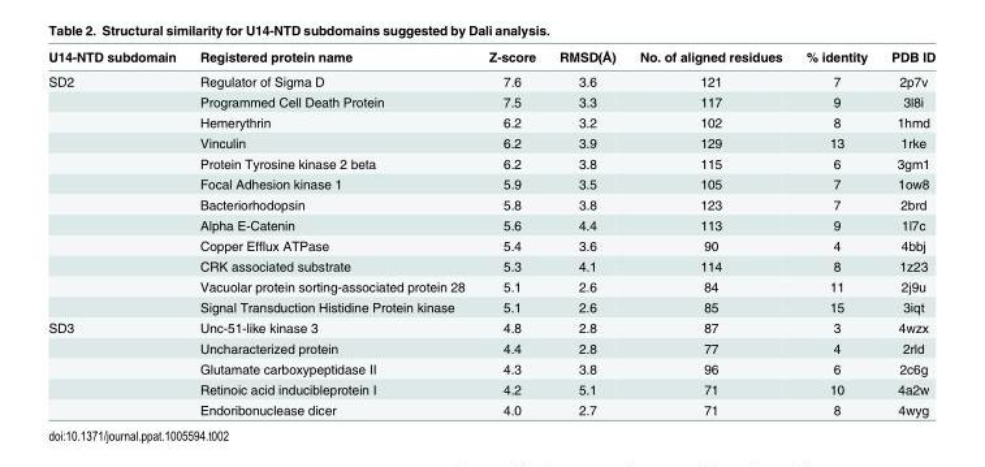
<table><thead><tr><td>U14-NTD subdomain</td><td>Registered protein name</td><td>Z-score</td><td>RMSD(Å)</td><td>No. of aligned residues</td><td>% identity</td><td>PDB ID</td></tr></thead><tbody><tr><td rowspan="12">SD2</td><td>Regulator of Sigma D</td><td>7.6</td><td>3.6</td><td>121</td><td>7</td><td>2p7v</td></tr><tr><td>Programmed Cell Death Protein</td><td>7.5</td><td>3.3</td><td>117</td><td>9</td><td>3l8i</td></tr><tr><td>Hemerythrin</td><td>6.2</td><td>3.2</td><td>102</td><td>8</td><td>1hmd</td></tr><tr><td>Vinculin</td><td>6.2</td><td>3.9</td><td>129</td><td>13</td><td>1rke</td></tr><tr><td>Protein Tyrosine kinase 2 beta</td><td>6.2</td><td>3.8</td><td>115</td><td>6</td><td>3gm1</td></tr><tr><td>Focal Adhesion kinase 1</td><td>5.9</td><td>3.5</td><td>105</td><td>7</td><td>1ow8</td></tr><tr><td>Bacteriorhodopsin</td><td>5.8</td><td>3.8</td><td>123</td><td>7</td><td>2brd</td></tr><tr><td>Alpha E-Catenin</td><td>5.6</td><td>4.4</td><td>113</td><td>9</td><td>1l7c</td></tr><tr><td>Copper Efflux ATPase</td><td>5.4</td><td>3.6</td><td>90</td><td>4</td><td>4bbj</td></tr><tr><td>CRK associated substrate</td><td>5.3</td><td>4.1</td><td>114</td><td>8</td><td>1z23</td></tr><tr><td>Vacuolar protein sorting-associated protein 28</td><td>5.1</td><td>2.6</td><td>84</td><td>11</td><td>2j9u</td></tr><tr><td>Signal Transduction Histidine Protein kinase</td><td>5.1</td><td>2.6</td><td>85</td><td>15</td><td>3iqt</td></tr><tr><td rowspan="5">SD3</td><td>Unc-51-like kinase 3</td><td>4.8</td><td>2.8</td><td>87</td><td>3</td><td>4wzx</td></tr><tr><td>Uncharacterized protein</td><td>4.4</td><td>2.8</td><td>77</td><td>4</td><td>2rld</td></tr><tr><td>Glutamate carboxypeptidase II</td><td>4.3</td><td>3.8</td><td>96</td><td>6</td><td>2c6g</td></tr><tr><td>Retinoic acid inducibleprotein I</td><td>4.2</td><td>5.1</td><td>71</td><td>10</td><td>4a2w</td></tr><tr><td>Endoribonuclease dicer</td><td>4.0</td><td>2.7</td><td>71</td><td>8</td><td>4wyg</td></tr></tbody></table>